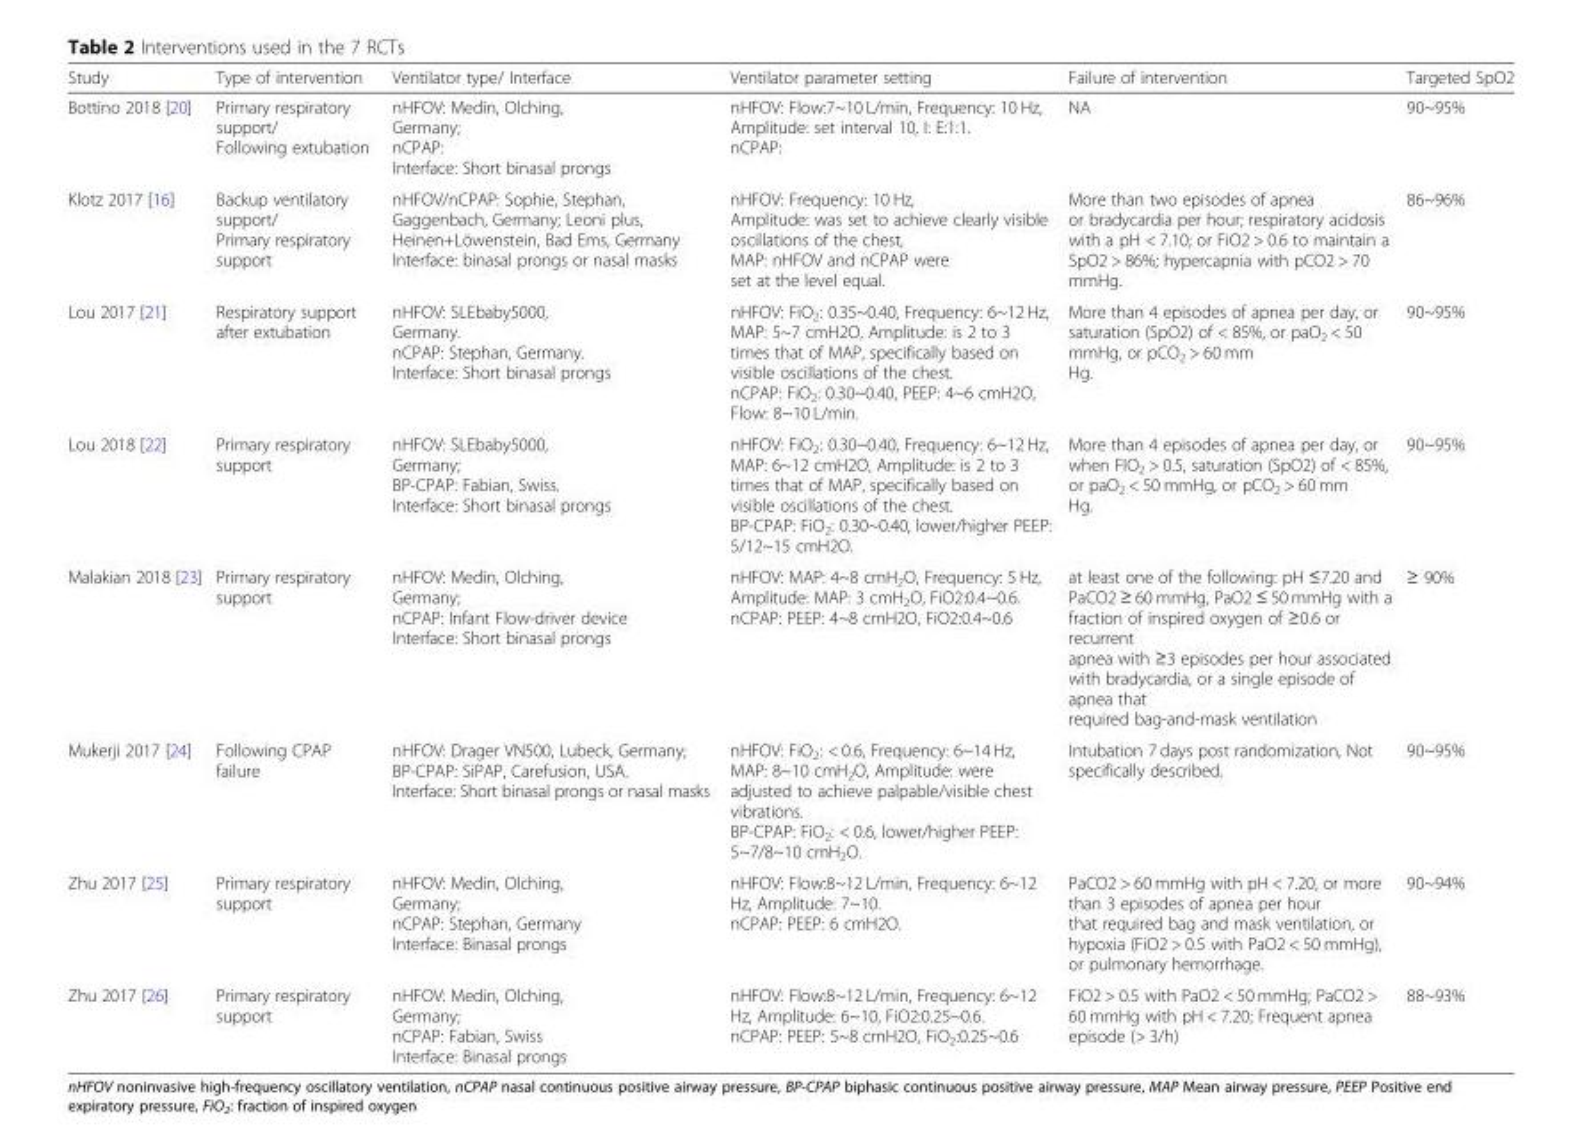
<table><thead><tr><td>Study</td><td>Type of intervention</td><td>Ventilator type/ Interface</td><td>Ventilator parameter setting</td><td>Failure of intervention</td><td>Targeted SpO2</td></tr></thead><tbody><tr><td>Bottino 2018 [20]</td><td>Primary respiratory support/ Following extubation</td><td>nHFOV: Medin, Olching, Germany; nCPAP: Interface: Short binasal prongs</td><td>nHFOV: Flow:7~10 L/min, Frequency: 10 Hz, Amplitude: set interval 10, I: E:1:1. nCPAP:</td><td>NA</td><td>90~95%</td></tr><tr><td>Klotz 2017 [16]</td><td>Backup ventilatory support/ Primary respiratory support</td><td>nHFOV/nCPAP: Sophie, Stephan, Gaggenbach, Germany; Leoni plus, Heinen+Löwenstein, Bad Ems, Germany Interface: binasal prongs or nasal masks</td><td>nHFOV: Frequency: 10 Hz, Amplitude: was set to achieve clearly visible oscillations of the chest, MAP: nHFOV and nCPAP were set at the level equal.</td><td>More than two episodes of apnea or bradycardia per hour; respiratory acidosis with a pH &lt; 7.10; or FiO2 &gt; 0.6 to maintain a SpO2 &gt; 86%; hypercapnia with pCO2 &gt; 70 mmHg.</td><td>86~96%</td></tr><tr><td>Lou 2017 [21]</td><td>Respiratory support after extubation</td><td>nHFOV: SLEbaby5000, Germany. nCPAP: Stephan, Germany. Interface: Short binasal prongs</td><td>nHFOV: FiO<sub>2</sub>: 0.35~0.40, Frequency: 6~12 Hz, MAP: 5~7 cmH2O, Amplitude: is 2 to 3 times that of MAP, specifically based on visible oscillations of the chest. nCPAP: FiO<sub>2</sub>: 0.30~0.40, PEEP: 4~6 cmH2O, Flow: 8~10 L/min.</td><td>More than 4 episodes of apnea per day, or saturation (SpO2) of &lt; 85%, or paO<sub>2</sub> &lt; 50 mmHg, or pCO<sub>2</sub> &gt; 60 mm Hg.</td><td>90~95%</td></tr><tr><td>Lou 2018 [22]</td><td>Primary respiratory support</td><td>nHFOV: SLEbaby5000, Germany; BP-CPAP: Fabian, Swiss. Interface: Short binasal prongs</td><td>nHFOV: FiO<sub>2</sub>: 0.30~0.40, Frequency: 6~12 Hz, MAP: 6~12 cmH2O, Amplitude: is 2 to 3 times that of MAP, specifically based on visible oscillations of the chest. BP-CPAP: FiO<sub>2</sub>: 0.30~0.40, lower/higher PEEP: 5/12~15 cmH2O.</td><td>More than 4 episodes of apnea per day, or when FIO<sub>2</sub> &gt; 0.5, saturation (SpO2) of &lt; 85%, or paO<sub>2</sub> &lt; 50 mmHg, or pCO<sub>2</sub> &gt; 60 mm Hg.</td><td>90~95%</td></tr><tr><td>Malakian 2018 [23]</td><td>Primary respiratory support</td><td>nHFOV: Medin, Olching, Germany; nCPAP: Infant Flow-driver device Interface: Short binasal prongs</td><td>nHFOV: MAP: 4~8 cmH<sub>2</sub>O, Frequency: 5 Hz, Amplitude: MAP: 3 cmH<sub>2</sub>O, FiO2:0.4~0.6. nCPAP: PEEP: 4~8 cmH2O, FiO2:0.4~0.6</td><td>at least one of the following: pH ≤7.20 and PaCO2 ≥ 60 mmHg, PaO2 ≤ 50 mmHg with a fraction of inspired oxygen of ≥0.6 or recurrent apnea with ≥3 episodes per hour associated with bradycardia, or a single episode of apnea that required bag-and-mask ventilation</td><td>≥ 90%</td></tr><tr><td>Mukerji 2017 [24]</td><td>Following CPAP failure</td><td>nHFOV: Drager VN500, Lubeck, Germany; BP-CPAP: SiPAP, Carefusion, USA. Interface: Short binasal prongs or nasal masks</td><td>nHFOV: FiO<sub>2</sub>: &lt; 0.6, Frequency: 6~14 Hz, MAP: 8~10 cmH<sub>2</sub>O, Amplitude: were adjusted to achieve palpable/visible chest vibrations. BP-CPAP: FiO<sub>2</sub>: &lt; 0.6, lower/higher PEEP: 5~7/8~10 cmH<sub>2</sub>O.</td><td>Intubation 7 days post randomization, Not specifically described.</td><td>90~95%</td></tr><tr><td>Zhu 2017 [25]</td><td>Primary respiratory support</td><td>nHFOV: Medin, Olching, Germany; nCPAP: Stephan, Germany Interface: Binasal prongs</td><td>nHFOV: Flow:8~12 L/min, Frequency: 6~12 Hz, Amplitude: 7~10. nCPAP: PEEP: 6 cmH2O.</td><td>PaCO2 &gt; 60 mmHg with pH &lt; 7.20, or more than 3 episodes of apnea per hour that required bag and mask ventilation, or hypoxia (FiO2 &gt; 0.5 with PaO2 &lt; 50 mmHg), or pulmonary hemorrhage.</td><td>90~94%</td></tr><tr><td>Zhu 2017 [26]</td><td>Primary respiratory support</td><td>nHFOV: Medin, Olching, Germany; nCPAP: Fabian, Swiss Interface: Binasal prongs</td><td>nHFOV: Flow:8~12 L/min, Frequency: 6~12 Hz, Amplitude: 6~10, FiO2:0.25~0.6. nCPAP: PEEP: 5~8 cmH2O, FiO<sub>2</sub>:0.25~0.6</td><td>FiO2 &gt; 0.5 with PaO2 &lt; 50 mmHg; PaCO2 &gt; 60 mmHg with pH &lt; 7.20; Frequent apnea episode (&gt; 3/h)</td><td>88~93%</td></tr></tbody></table>